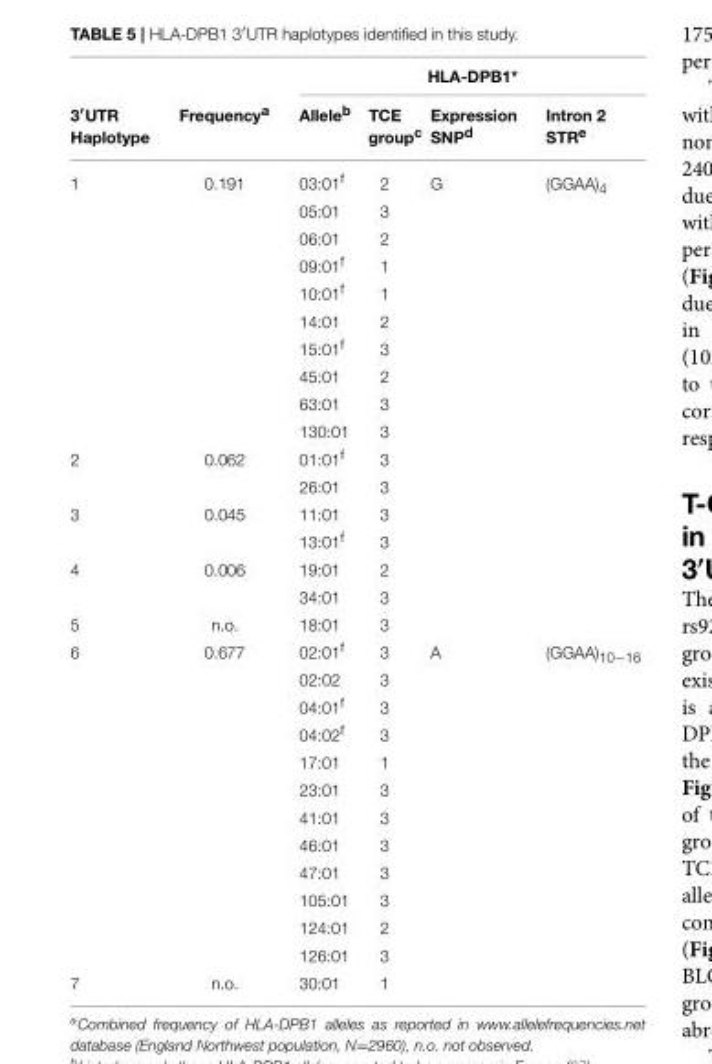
<table><thead><tr><td rowspan="2">3′UTR Haplotype</td><td rowspan="2">Frequency<sup>a</sup></td><td colspan="4">HLA-DPB1*</td></tr><tr><td>Allele<sup>b</sup></td><td>TCE group<sup>c</sup></td><td>Expression SNP<sup>d</sup></td><td>Intron 2 STR<sup>e</sup></td></tr></thead><tbody><tr><td rowspan="10">1</td><td>0.191</td><td>03:01<sup>f</sup></td><td>2</td><td>G</td><td>(GGAA)<sub>4</sub></td></tr><tr><td></td><td>05:01</td><td>3</td><td></td><td></td></tr><tr><td></td><td>06:01</td><td>2</td><td></td><td></td></tr><tr><td></td><td>09:01<sup>f</sup></td><td>1</td><td></td><td></td></tr><tr><td></td><td>10:01<sup>f</sup></td><td>1</td><td></td><td></td></tr><tr><td></td><td>14:01</td><td>2</td><td></td><td></td></tr><tr><td></td><td>15:01<sup>f</sup></td><td>3</td><td></td><td></td></tr><tr><td></td><td>45:01</td><td>2</td><td></td><td></td></tr><tr><td></td><td>63:01</td><td>3</td><td></td><td></td></tr><tr><td></td><td>130:01</td><td>3</td><td></td><td></td></tr><tr><td rowspan="2">2</td><td>0.062</td><td>01:01<sup>f</sup></td><td>3</td><td></td><td></td></tr><tr><td></td><td>26:01</td><td>3</td><td></td><td></td></tr><tr><td rowspan="2">3</td><td>0.045</td><td>11:01</td><td>3</td><td></td><td></td></tr><tr><td></td><td>13:01<sup>f</sup></td><td>3</td><td></td><td></td></tr><tr><td rowspan="2">4</td><td>0.006</td><td>19:01</td><td>2</td><td></td><td></td></tr><tr><td></td><td>34:01</td><td>3</td><td></td><td></td></tr><tr><td>5</td><td>n.o.</td><td>18:01</td><td>3</td><td></td><td></td></tr><tr><td rowspan="12">6</td><td>0.677</td><td>02:01<sup>f</sup></td><td>3</td><td>A</td><td>(GGAA)<sub>10−16</sub></td></tr><tr><td></td><td>02:02</td><td>3</td><td></td><td></td></tr><tr><td></td><td>04:01<sup>f</sup></td><td>3</td><td></td><td></td></tr><tr><td></td><td>04:02<sup>f</sup></td><td>3</td><td></td><td></td></tr><tr><td></td><td>17:01</td><td>1</td><td></td><td></td></tr><tr><td></td><td>23:01</td><td>3</td><td></td><td></td></tr><tr><td></td><td>41:01</td><td>3</td><td></td><td></td></tr><tr><td></td><td>46:01</td><td>3</td><td></td><td></td></tr><tr><td></td><td>47:01</td><td>3</td><td></td><td></td></tr><tr><td></td><td>105:01</td><td>3</td><td></td><td></td></tr><tr><td></td><td>124:01</td><td>2</td><td></td><td></td></tr><tr><td></td><td>126:01</td><td>3</td><td></td><td></td></tr><tr><td>7</td><td>n.o.</td><td>30:01</td><td>1</td><td></td><td></td></tr></tbody></table>